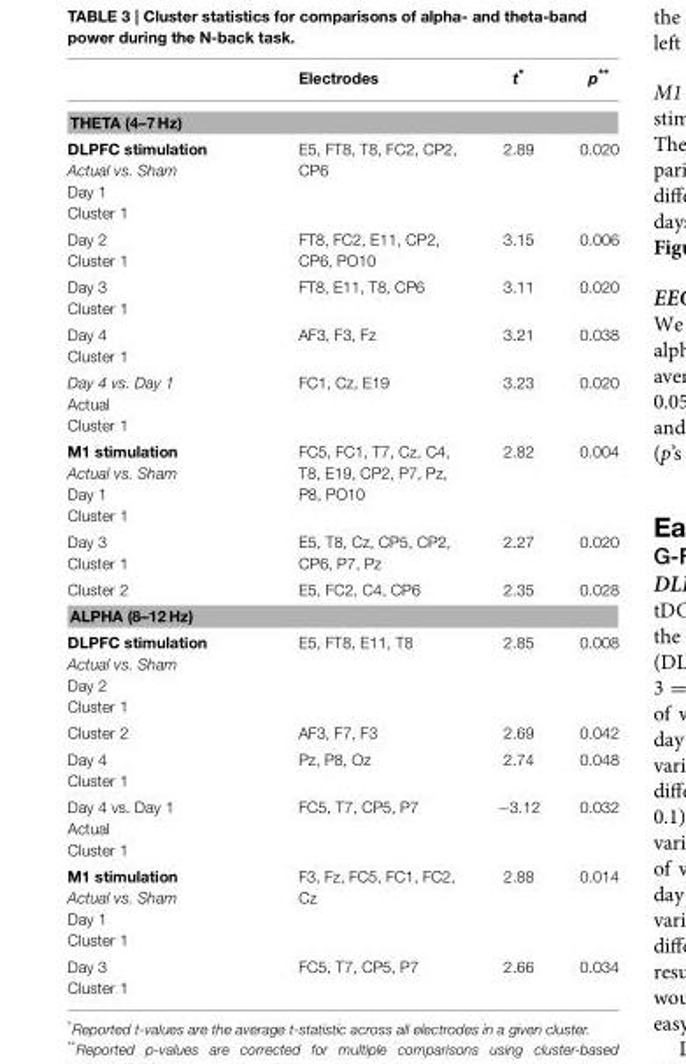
<table><thead><tr><td></td><td>Electrodes</td><td>t*</td><td>p**</td></tr></thead><tbody><tr><td colspan="4">THETA (4–7 Hz)</td></tr><tr><td>DLPFC stimulation Actual vs. Sham Day 1 Cluster 1</td><td>E5, FT8, T8, FC2, CP2, CP6</td><td>2.89</td><td>0.020</td></tr><tr><td>Day 2 Cluster 1</td><td>FT8, FC2, E11, CP2, CP6, PO10</td><td>3.15</td><td>0.006</td></tr><tr><td>Day 3 Cluster 1</td><td>FT8, E11, T8, CP6</td><td>3.11</td><td>0.020</td></tr><tr><td>Day 4 Cluster 1</td><td>AF3, F3, Fz</td><td>3.21</td><td>0.038</td></tr><tr><td>Day 4 vs. Day 1 Actual Cluster 1</td><td>FC1, Cz, E19</td><td>3.23</td><td>0.020</td></tr><tr><td>M1 stimulation Actual vs. Sham Day 1 Cluster 1</td><td>FC5, FC1, T7, Cz, C4, T8, E19, CP2, P7, Pz, P8, PO10</td><td>2.82</td><td>0.004</td></tr><tr><td>Day 3 Cluster 1</td><td>E5, T8, Cz, CP5, CP2, CP6, P7, Pz</td><td>2.27</td><td>0.020</td></tr><tr><td>Cluster 2</td><td>E5, FC2, C4, CP6</td><td>2.35</td><td>0.028</td></tr><tr><td colspan="4">ALPHA (8–12 Hz)</td></tr><tr><td>DLPFC stimulation Actual vs. Sham Day 2 Cluster 1</td><td>E5, FT8, E11, T8</td><td>2.85</td><td>0.008</td></tr><tr><td>Cluster 2</td><td>AF3, F7, F3</td><td>2.69</td><td>0.042</td></tr><tr><td>Day 4 Cluster 1</td><td>Pz, P8, Oz</td><td>2.74</td><td>0.048</td></tr><tr><td>Day 4 vs. Day 1 Actual Cluster 1</td><td>FC5, T7, CP5, P7</td><td>−3.12</td><td>0.032</td></tr><tr><td>M1 stimulation Actual vs. Sham Day 1 Cluster 1</td><td>F3, Fz, FC5, FC1, FC2, Cz</td><td>2.88</td><td>0.014</td></tr><tr><td>Day 3 Cluster 1</td><td>FC5, T7, CP5, P7</td><td>2.66</td><td>0.034</td></tr></tbody></table>